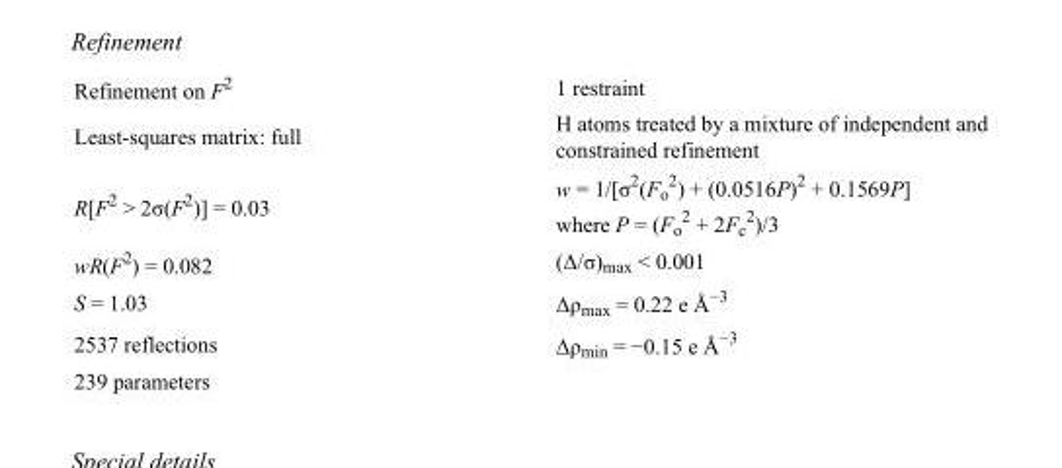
<table><tbody><tr><td>Refinement on F<sup>2</sup></td><td>1 restraint</td></tr><tr><td>Least-squares matrix: full</td><td>H atoms treated by a mixture of independent and constrained refinement</td></tr><tr><td>R[F<sup>2</sup> &gt; 2σ(F<sup>2</sup>)] = 0.03</td><td>w = 1/[σ<sup>2</sup>(F<sub>o</sub> <sup>2</sup>) + (0.0516P)<sup>2</sup> + 0.1569P] where P = (F<sub>o</sub> <sup>2</sup> + 2F<sub>c</sub> <sup>2</sup>)/3</td></tr><tr><td>wR(F<sup>2</sup>) = 0.082</td><td>(Δ/σ)<sub>max</sub> &lt; 0.001</td></tr><tr><td>S = 1.03</td><td>Δρ<sub>max</sub> = 0.22 e Å<sup>−3</sup></td></tr><tr><td>2537 reflections</td><td>Δρ<sub>min</sub> = −0.15 e Å<sup>−3</sup></td></tr><tr><td>239 parameters</td><td></td></tr></tbody></table>